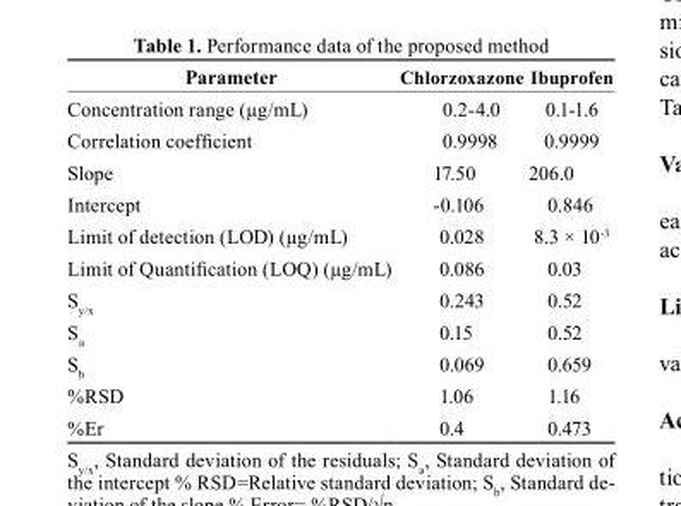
<table><thead><tr><td>Parameter</td><td>Chlorzoxazone</td><td>Ibuprofen</td></tr></thead><tbody><tr><td>Concentration range (µg/mL)</td><td>0.2-4.0</td><td>0.1-1.6</td></tr><tr><td>Correlation coefficient</td><td>0.9998</td><td>0.9999</td></tr><tr><td>Slope</td><td>17.50</td><td>206.0</td></tr><tr><td>Intercept</td><td>-0.106</td><td>0.846</td></tr><tr><td>Limit of detection (LOD) (µg/mL)</td><td>0.028</td><td>8.3 × 10<sup>-3</sup></td></tr><tr><td>Limit of Quantification (LOQ) (µg/mL)</td><td>0.086</td><td>0.03</td></tr><tr><td>S<sub>y/x</sub></td><td>0.243</td><td>0.52</td></tr><tr><td>S<sub>a</sub></td><td>0.15</td><td>0.52</td></tr><tr><td>S<sub>b</sub></td><td>0.069</td><td>0.659</td></tr><tr><td>%RSD</td><td>1.06</td><td>1.16</td></tr><tr><td>%Er</td><td>0.4</td><td>0.473</td></tr></tbody></table>